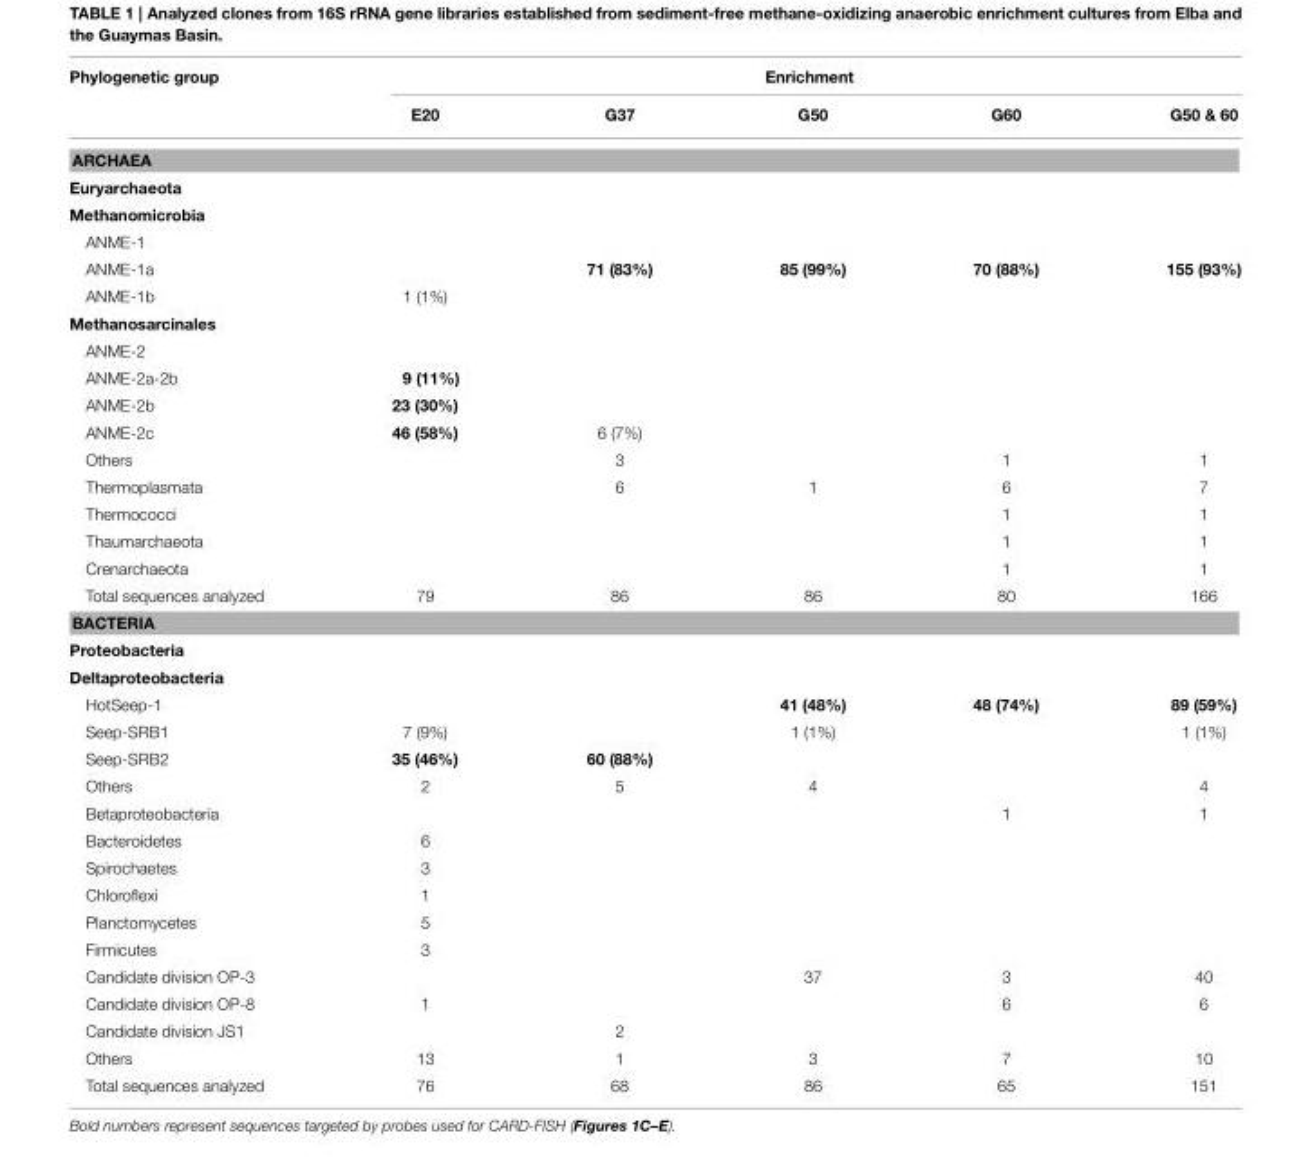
<table><thead><tr><td rowspan="2">Phylogenetic group</td><td colspan="5">Enrichment</td></tr><tr><td>E20</td><td>G37</td><td>G50</td><td>G60</td><td>G50 &amp; 60</td></tr></thead><tbody><tr><td colspan="6">ARCHAEA</td></tr><tr><td colspan="6">Euryarchaeota</td></tr><tr><td colspan="6">Methanomicrobia</td></tr><tr><td colspan="6">ANME-1</td></tr><tr><td>ANME-1a</td><td></td><td>71 (83%)</td><td>85 (99%)</td><td>70 (88%)</td><td>155 (93%)</td></tr><tr><td>ANME-1b</td><td>1 (1%)</td><td></td><td></td><td></td><td></td></tr><tr><td colspan="6">Methanosarcinales</td></tr><tr><td colspan="6">ANME-2</td></tr><tr><td>ANME-2a-2b</td><td>9 (11%)</td><td></td><td></td><td></td><td></td></tr><tr><td>ANME-2b</td><td>23 (30%)</td><td></td><td></td><td></td><td></td></tr><tr><td>ANME-2c</td><td>46 (58%)</td><td>6 (7%)</td><td></td><td></td><td></td></tr><tr><td>Others</td><td></td><td>3</td><td></td><td>1</td><td>1</td></tr><tr><td>Thermoplasmata</td><td></td><td>6</td><td>1</td><td>6</td><td>7</td></tr><tr><td>Thermococci</td><td></td><td></td><td></td><td>1</td><td>1</td></tr><tr><td>Thaumarchaeota</td><td></td><td></td><td></td><td>1</td><td>1</td></tr><tr><td>Crenarchaeota</td><td></td><td></td><td></td><td>1</td><td>1</td></tr><tr><td>Total sequences analyzed</td><td>79</td><td>86</td><td>86</td><td>80</td><td>166</td></tr><tr><td colspan="6">BACTERIA</td></tr><tr><td colspan="6">Proteobacteria</td></tr><tr><td colspan="6">Deltaproteobacteria</td></tr><tr><td>HotSeep-1</td><td></td><td></td><td>41 (48%)</td><td>48 (74%)</td><td>89 (59%)</td></tr><tr><td>Seep-SRB1</td><td>7 (9%)</td><td></td><td>1 (1%)</td><td></td><td>1 (1%)</td></tr><tr><td>Seep-SRB2</td><td>35 (46%)</td><td>60 (88%)</td><td></td><td></td><td></td></tr><tr><td>Others</td><td>2</td><td>5</td><td>4</td><td></td><td>4</td></tr><tr><td>Betaproteobacteria</td><td></td><td></td><td></td><td>1</td><td>1</td></tr><tr><td>Bacteroidetes</td><td>6</td><td></td><td></td><td></td><td></td></tr><tr><td>Spirochaetes</td><td>3</td><td></td><td></td><td></td><td></td></tr><tr><td>Chloroflexi</td><td>1</td><td></td><td></td><td></td><td></td></tr><tr><td>Planctomycetes</td><td>5</td><td></td><td></td><td></td><td></td></tr><tr><td>Firmicutes</td><td>3</td><td></td><td></td><td></td><td></td></tr><tr><td>Candidate division OP-3</td><td></td><td></td><td>37</td><td>3</td><td>40</td></tr><tr><td>Candidate division OP-8</td><td>1</td><td></td><td></td><td>6</td><td>6</td></tr><tr><td>Candidate division JS1</td><td></td><td>2</td><td></td><td></td><td></td></tr><tr><td>Others</td><td>13</td><td>1</td><td>3</td><td>7</td><td>10</td></tr><tr><td>Total sequences analyzed</td><td>76</td><td>68</td><td>86</td><td>65</td><td>151</td></tr></tbody></table>